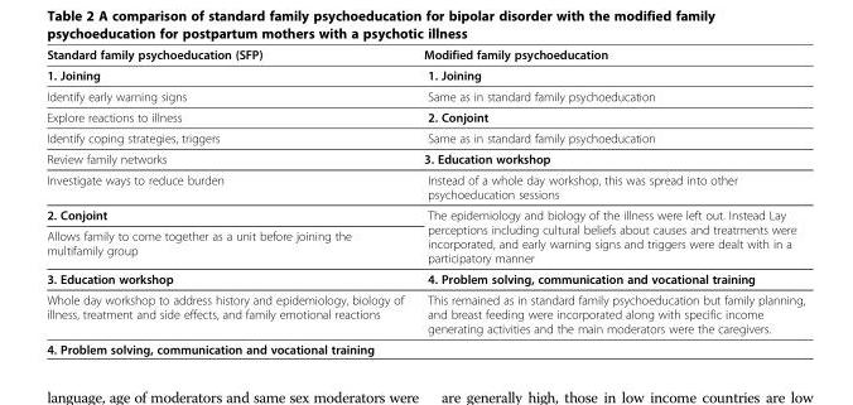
<table><thead><tr><td>Standard family psychoeducation (SFP)</td><td>Modified family psychoeducation</td></tr></thead><tbody><tr><td>1. Joining</td><td>1. Joining</td></tr><tr><td>Identify early warning signs</td><td>Same as in standard family psychoeducation</td></tr><tr><td>Explore reactions to illness</td><td>2. Conjoint</td></tr><tr><td>Identify coping strategies, triggers</td><td>Same as in standard family psychoeducation</td></tr><tr><td>Review family networks</td><td>3. Education workshop</td></tr><tr><td>Investigate ways to reduce burden</td><td>Instead of a whole day workshop, this was spread into other psychoeducation sessions</td></tr><tr><td>2. Conjoint</td><td rowspan="2">The epidemiology and biology of the illness were left out. Instead Lay perceptions including cultural beliefs about causes and treatments were incorporated, and early warning signs and triggers were dealt with in a participatory manner</td></tr><tr><td>Allows family to come together as a unit before joining the multifamily group</td></tr><tr><td>3. Education workshop</td><td>4. Problem solving, communication and vocational training</td></tr><tr><td>Whole day workshop to address history and epidemiology, biology of illness, treatment and side effects, and family emotional reactions</td><td>This remained as in standard family psychoeducation but family planning, and breast feeding were incorporated along with specific income generating activities and the main moderators were the caregivers.</td></tr><tr><td>4. Problem solving, communication and vocational training</td><td></td></tr></tbody></table>